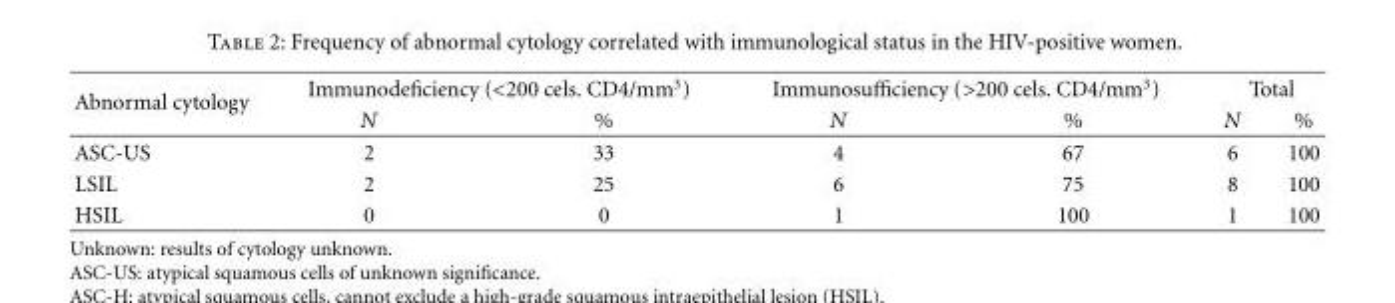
<table><thead><tr><td rowspan="2">Abnormal cytology</td><td colspan="2">Immunodeficiency (&lt;200 cels. CD4/mm<sup>3</sup>)</td><td colspan="2">Immunosufficiency (&gt;200 cels. CD4/mm<sup>3</sup>)</td><td colspan="2">Total</td></tr><tr><td>N</td><td>%</td><td>N</td><td>%</td><td>N</td><td>%</td></tr></thead><tbody><tr><td>ASC-US</td><td>2</td><td>33</td><td>4</td><td>67</td><td>6</td><td>100</td></tr><tr><td>LSIL</td><td>2</td><td>25</td><td>6</td><td>75</td><td>8</td><td>100</td></tr><tr><td>HSIL</td><td>0</td><td>0</td><td>1</td><td>100</td><td>1</td><td>100</td></tr></tbody></table>